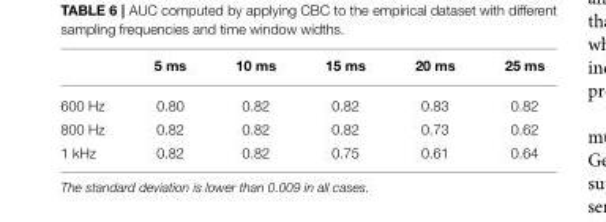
<table><thead><tr><td></td><td>5 ms</td><td>10 ms</td><td>15 ms</td><td>20 ms</td><td>25 ms</td></tr></thead><tbody><tr><td>600 Hz</td><td>0.80</td><td>0.82</td><td>0.82</td><td>0.83</td><td>0.82</td></tr><tr><td>800 Hz</td><td>0.82</td><td>0.82</td><td>0.82</td><td>0.73</td><td>0.62</td></tr><tr><td>1 kHz</td><td>0.82</td><td>0.82</td><td>0.75</td><td>0.61</td><td>0.64</td></tr></tbody></table>